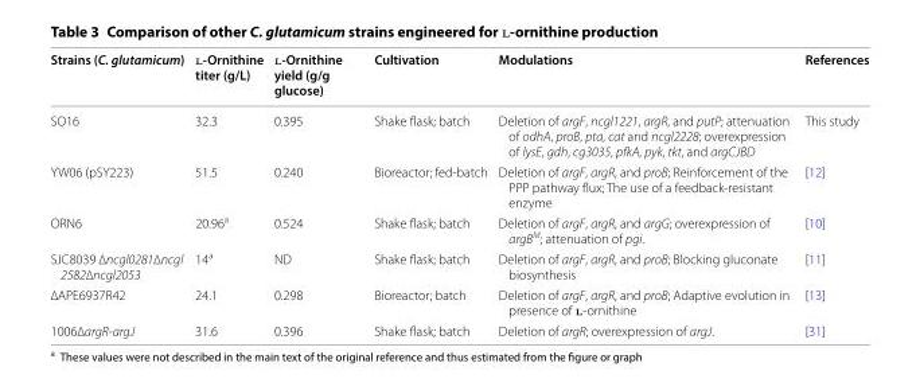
<table><thead><tr><td>Strains (C. glutamicum)</td><td>ʟ‑Ornithine titer (g/L)</td><td>ʟ‑Ornithine yield (g/g glucose)</td><td>Cultivation</td><td>Modulations</td><td>References</td></tr></thead><tbody><tr><td>SO16</td><td>32.3</td><td>0.395</td><td>Shake flask; batch</td><td>Deletion of argF, ncgl1221, argR, and putP; attenuation of odhA, proB, pta, cat and ncgl2228; overexpression of lysE, gdh, cg3035, pfkA, pyk, tkt, and argCJBD</td><td>This study</td></tr><tr><td>YW06 (pSY223)</td><td>51.5</td><td>0.240</td><td>Bioreactor; fed‑batch</td><td>Deletion of argF, argR, and proB; Reinforcement of the PPP pathway flux; The use of a feedback‑resistant enzyme</td><td>[12]</td></tr><tr><td>ORN6</td><td>20.96<sup>a</sup></td><td>0.524</td><td>Shake flask; batch</td><td>Deletion of argF, argR, and argG; overexpression of argB<sup>M</sup>; attenuation of pgi.</td><td>[10]</td></tr><tr><td>SJC8039 ∆ncgl0281∆ncgl 2582∆ncgl2053</td><td>14<sup>a</sup></td><td>ND</td><td>Shake flask; batch</td><td>Deletion of argF, argR, and proB; Blocking gluconate biosynthesis</td><td>[11]</td></tr><tr><td>∆APE6937R42</td><td>24.1</td><td>0.298</td><td>Bioreactor; batch</td><td>Deletion of argF, argR, and proB; Adaptive evolution in presence of ʟ‑ornithine</td><td>[13]</td></tr><tr><td>1006∆argR‑argJ</td><td>31.6</td><td>0.396</td><td>Shake flask; batch</td><td>Deletion of argR; overexpression of argJ.</td><td>[31]</td></tr></tbody></table>